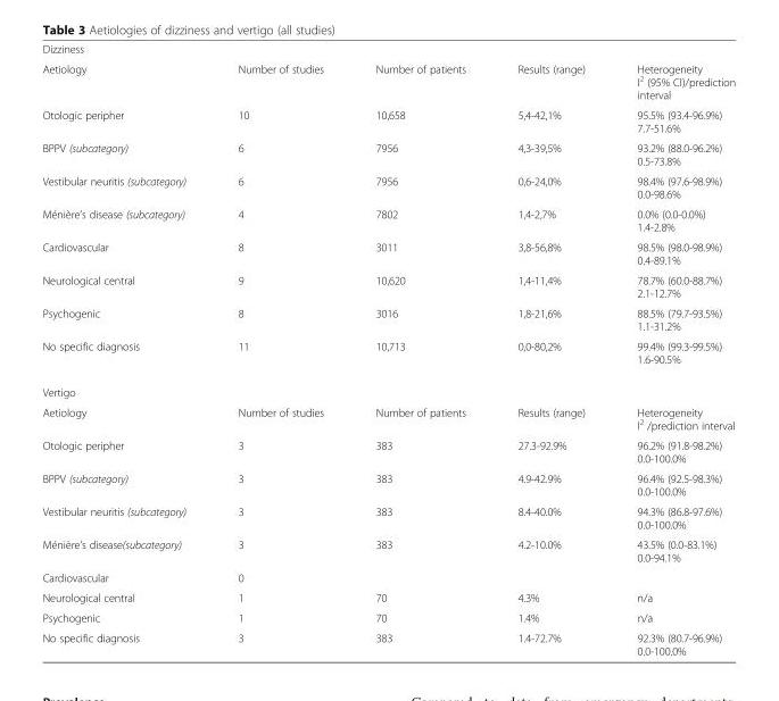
<table><tbody><tr><td colspan="5">Dizziness</td></tr><tr><td>Aetiology</td><td>Number of studies</td><td>Number of patients</td><td>Results (range)</td><td>Heterogeneity I<sup>2</sup> (95% CI)/prediction interval</td></tr><tr><td>Otologic peripher</td><td>10</td><td>10,658</td><td>5,4-42,1%</td><td>95.5% (93.4-96.9%) 7.7-51.6%</td></tr><tr><td>BPPV (subcategory)</td><td>6</td><td>7956</td><td>4,3-39,5%</td><td>93.2% (88.0-96.2%) 0.5-73.8%</td></tr><tr><td>Vestibular neuritis (subcategory)</td><td>6</td><td>7956</td><td>0,6-24,0%</td><td>98.4% (97.6-98.9%) 0.0-98.6%</td></tr><tr><td>Ménière’s disease (subcategory)</td><td>4</td><td>7802</td><td>1,4-2,7%</td><td>0.0% (0.0-0.0%) 1.4-2.8%</td></tr><tr><td>Cardiovascular</td><td>8</td><td>3011</td><td>3,8-56,8%</td><td>98.5% (98.0-98.9%) 0.4-89.1%</td></tr><tr><td>Neurological central</td><td>9</td><td>10,620</td><td>1,4-11,4%</td><td>78.7% (60.0-88.7%) 2.1-12.7%</td></tr><tr><td>Psychogenic</td><td>8</td><td>3016</td><td>1,8-21,6%</td><td>88.5% (79.7-93.5%) 1.1-31.2%</td></tr><tr><td>No specific diagnosis</td><td>11</td><td>10,713</td><td>0,0-80,2%</td><td>99.4% (99.3-99.5%) 1.6-90.5%</td></tr><tr><td colspan="5">Vertigo</td></tr><tr><td>Aetiology</td><td>Number of studies</td><td>Number of patients</td><td>Results (range)</td><td>Heterogeneity I<sup>2</sup> /prediction interval</td></tr><tr><td>Otologic peripher</td><td>3</td><td>383</td><td>27.3-92.9%</td><td>96.2% (91.8-98.2%) 0.0-100.0%</td></tr><tr><td>BPPV (subcategory)</td><td>3</td><td>383</td><td>4.9-42.9%</td><td>96.4% (92.5-98.3%) 0.0-100.0%</td></tr><tr><td>Vestibular neuritis (subcategory)</td><td>3</td><td>383</td><td>8.4-40.0%</td><td>94.3% (86.8-97.6%) 0.0-100.0%</td></tr><tr><td>Ménière’s disease(subcategory)</td><td>3</td><td>383</td><td>4.2-10.0%</td><td>43.5% (0.0-83.1%) 0.0-94.1%</td></tr><tr><td>Cardiovascular</td><td>0</td><td></td><td></td><td></td></tr><tr><td>Neurological central</td><td>1</td><td>70</td><td>4.3%</td><td>n/a</td></tr><tr><td>Psychogenic</td><td>1</td><td>70</td><td>1.4%</td><td>n/a</td></tr><tr><td>No specific diagnosis</td><td>3</td><td>383</td><td>1.4-72.7%</td><td>92.3% (80.7-96.9%) 0.0-100.0%</td></tr></tbody></table>